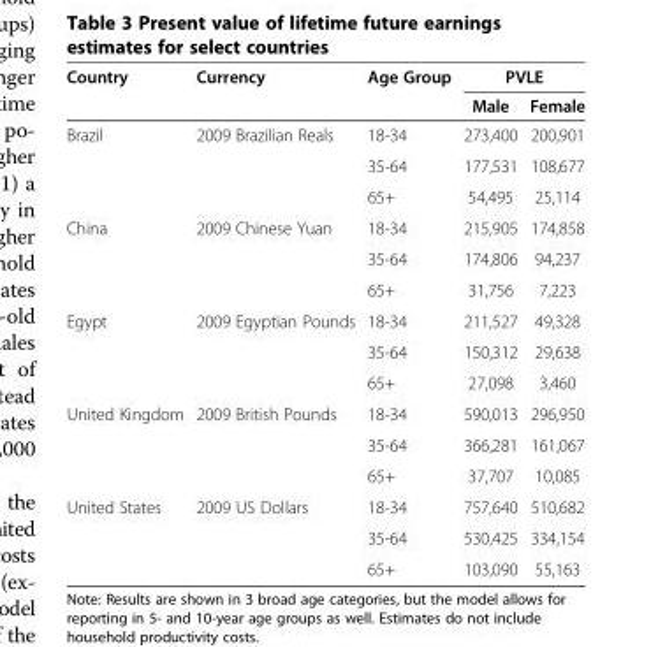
<table><thead><tr><td rowspan="2">Country</td><td rowspan="2">Currency</td><td rowspan="2">Age Group</td><td colspan="2">PVLE</td></tr><tr><td>Male</td><td>Female</td></tr></thead><tbody><tr><td rowspan="3">Brazil</td><td rowspan="3">2009 Brazilian Reals</td><td>18-34</td><td>273,400</td><td>200,901</td></tr><tr><td>35-64</td><td>177,531</td><td>108,677</td></tr><tr><td>65+</td><td>54,495</td><td>25,114</td></tr><tr><td rowspan="3">China</td><td rowspan="3">2009 Chinese Yuan</td><td>18-34</td><td>215,905</td><td>174,858</td></tr><tr><td>35-64</td><td>174,806</td><td>94,237</td></tr><tr><td>65+</td><td>31,756</td><td>7,223</td></tr><tr><td rowspan="3">Egypt</td><td rowspan="3">2009 Egyptian Pounds</td><td>18-34</td><td>211,527</td><td>49,328</td></tr><tr><td>35-64</td><td>150,312</td><td>29,638</td></tr><tr><td>65+</td><td>27,098</td><td>3,460</td></tr><tr><td rowspan="3">United Kingdom</td><td rowspan="3">2009 British Pounds</td><td>18-34</td><td>590,013</td><td>296,950</td></tr><tr><td>35-64</td><td>366,281</td><td>161,067</td></tr><tr><td>65+</td><td>37,707</td><td>10,085</td></tr><tr><td rowspan="3">United States</td><td>2009 US Dollars</td><td>18-34</td><td>757,640</td><td>510,682</td></tr><tr><td></td><td>35-64</td><td>530,425</td><td>334,154</td></tr><tr><td></td><td>65+</td><td>103,090</td><td>55,163</td></tr></tbody></table>